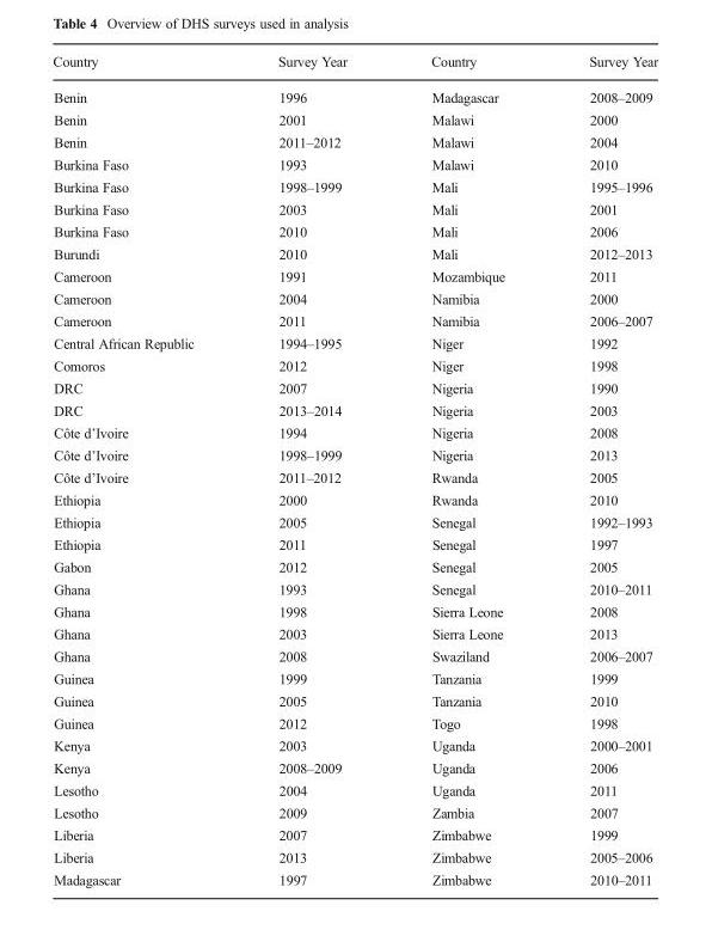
<table><thead><tr><td>Country</td><td>Survey Year</td><td>Country</td><td>Survey Year</td></tr></thead><tbody><tr><td>Benin</td><td>1996</td><td>Madagascar</td><td>2008–2009</td></tr><tr><td>Benin</td><td>2001</td><td>Malawi</td><td>2000</td></tr><tr><td>Benin</td><td>2011–2012</td><td>Malawi</td><td>2004</td></tr><tr><td>Burkina Faso</td><td>1993</td><td>Malawi</td><td>2010</td></tr><tr><td>Burkina Faso</td><td>1998–1999</td><td>Mali</td><td>1995–1996</td></tr><tr><td>Burkina Faso</td><td>2003</td><td>Mali</td><td>2001</td></tr><tr><td>Burkina Faso</td><td>2010</td><td>Mali</td><td>2006</td></tr><tr><td>Burundi</td><td>2010</td><td>Mali</td><td>2012–2013</td></tr><tr><td>Cameroon</td><td>1991</td><td>Mozambique</td><td>2011</td></tr><tr><td>Cameroon</td><td>2004</td><td>Namibia</td><td>2000</td></tr><tr><td>Cameroon</td><td>2011</td><td>Namibia</td><td>2006–2007</td></tr><tr><td>Central African Republic</td><td>1994–1995</td><td>Niger</td><td>1992</td></tr><tr><td>Comoros</td><td>2012</td><td>Niger</td><td>1998</td></tr><tr><td>DRC</td><td>2007</td><td>Nigeria</td><td>1990</td></tr><tr><td>DRC</td><td>2013–2014</td><td>Nigeria</td><td>2003</td></tr><tr><td>Côte d’Ivoire</td><td>1994</td><td>Nigeria</td><td>2008</td></tr><tr><td>Côte d’Ivoire</td><td>1998–1999</td><td>Nigeria</td><td>2013</td></tr><tr><td>Côte d’Ivoire</td><td>2011–2012</td><td>Rwanda</td><td>2005</td></tr><tr><td>Ethiopia</td><td>2000</td><td>Rwanda</td><td>2010</td></tr><tr><td>Ethiopia</td><td>2005</td><td>Senegal</td><td>1992–1993</td></tr><tr><td>Ethiopia</td><td>2011</td><td>Senegal</td><td>1997</td></tr><tr><td>Gabon</td><td>2012</td><td>Senegal</td><td>2005</td></tr><tr><td>Ghana</td><td>1993</td><td>Senegal</td><td>2010–2011</td></tr><tr><td>Ghana</td><td>1998</td><td>Sierra Leone</td><td>2008</td></tr><tr><td>Ghana</td><td>2003</td><td>Sierra Leone</td><td>2013</td></tr><tr><td>Ghana</td><td>2008</td><td>Swaziland</td><td>2006–2007</td></tr><tr><td>Guinea</td><td>1999</td><td>Tanzania</td><td>1999</td></tr><tr><td>Guinea</td><td>2005</td><td>Tanzania</td><td>2010</td></tr><tr><td>Guinea</td><td>2012</td><td>Togo</td><td>1998</td></tr><tr><td>Kenya</td><td>2003</td><td>Uganda</td><td>2000–2001</td></tr><tr><td>Kenya</td><td>2008–2009</td><td>Uganda</td><td>2006</td></tr><tr><td>Lesotho</td><td>2004</td><td>Uganda</td><td>2011</td></tr><tr><td>Lesotho</td><td>2009</td><td>Zambia</td><td>2007</td></tr><tr><td>Liberia</td><td>2007</td><td>Zimbabwe</td><td>1999</td></tr><tr><td>Liberia</td><td>2013</td><td>Zimbabwe</td><td>2005–2006</td></tr><tr><td>Madagascar</td><td>1997</td><td>Zimbabwe</td><td>2010–2011</td></tr></tbody></table>